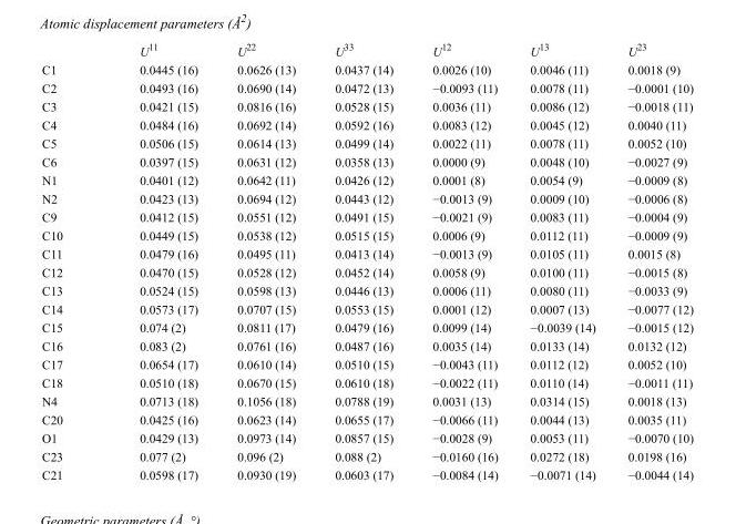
<table><thead><tr><td></td><td>U<sup>11</sup></td><td>U<sup>22</sup></td><td>U<sup>33</sup></td><td>U<sup>12</sup></td><td>U<sup>13</sup></td><td>U<sup>23</sup></td></tr></thead><tbody><tr><td>C1</td><td>0.0445 (16)</td><td>0.0626 (13)</td><td>0.0437 (14)</td><td>0.0026 (10)</td><td>0.0046 (11)</td><td>0.0018 (9)</td></tr><tr><td>C2</td><td>0.0493 (16)</td><td>0.0690 (14)</td><td>0.0472 (13)</td><td>−0.0093 (11)</td><td>0.0078 (11)</td><td>−0.0001 (10)</td></tr><tr><td>C3</td><td>0.0421 (15)</td><td>0.0816 (16)</td><td>0.0528 (15)</td><td>0.0036 (11)</td><td>0.0086 (12)</td><td>−0.0018 (11)</td></tr><tr><td>C4</td><td>0.0484 (16)</td><td>0.0692 (14)</td><td>0.0592 (16)</td><td>0.0083 (12)</td><td>0.0045 (12)</td><td>0.0040 (11)</td></tr><tr><td>C5</td><td>0.0506 (15)</td><td>0.0614 (13)</td><td>0.0499 (14)</td><td>0.0022 (11)</td><td>0.0078 (11)</td><td>0.0052 (10)</td></tr><tr><td>C6</td><td>0.0397 (15)</td><td>0.0631 (12)</td><td>0.0358 (13)</td><td>0.0000 (9)</td><td>0.0048 (10)</td><td>−0.0027 (9)</td></tr><tr><td>N1</td><td>0.0401 (12)</td><td>0.0642 (11)</td><td>0.0426 (12)</td><td>0.0001 (8)</td><td>0.0054 (9)</td><td>−0.0009 (8)</td></tr><tr><td>N2</td><td>0.0423 (13)</td><td>0.0694 (12)</td><td>0.0443 (12)</td><td>−0.0013 (9)</td><td>0.0009 (10)</td><td>−0.0006 (8)</td></tr><tr><td>C9</td><td>0.0412 (15)</td><td>0.0551 (12)</td><td>0.0491 (15)</td><td>−0.0021 (9)</td><td>0.0083 (11)</td><td>−0.0004 (9)</td></tr><tr><td>C10</td><td>0.0449 (15)</td><td>0.0538 (12)</td><td>0.0515 (15)</td><td>0.0006 (9)</td><td>0.0112 (11)</td><td>−0.0009 (9)</td></tr><tr><td>C11</td><td>0.0479 (16)</td><td>0.0495 (11)</td><td>0.0413 (14)</td><td>−0.0013 (9)</td><td>0.0105 (11)</td><td>0.0015 (8)</td></tr><tr><td>C12</td><td>0.0470 (15)</td><td>0.0528 (12)</td><td>0.0452 (14)</td><td>0.0058 (9)</td><td>0.0100 (11)</td><td>−0.0015 (8)</td></tr><tr><td>C13</td><td>0.0524 (15)</td><td>0.0598 (13)</td><td>0.0446 (13)</td><td>0.0006 (11)</td><td>0.0080 (11)</td><td>−0.0033 (9)</td></tr><tr><td>C14</td><td>0.0573 (17)</td><td>0.0707 (15)</td><td>0.0553 (15)</td><td>0.0001 (12)</td><td>0.0007 (13)</td><td>−0.0077 (12)</td></tr><tr><td>C15</td><td>0.074 (2)</td><td>0.0811 (17)</td><td>0.0479 (16)</td><td>0.0099 (14)</td><td>−0.0039 (14)</td><td>−0.0015 (12)</td></tr><tr><td>C16</td><td>0.083 (2)</td><td>0.0761 (16)</td><td>0.0487 (16)</td><td>0.0035 (14)</td><td>0.0133 (14)</td><td>0.0132 (12)</td></tr><tr><td>C17</td><td>0.0654 (17)</td><td>0.0610 (14)</td><td>0.0510 (15)</td><td>−0.0043 (11)</td><td>0.0112 (12)</td><td>0.0052 (10)</td></tr><tr><td>C18</td><td>0.0510 (18)</td><td>0.0670 (15)</td><td>0.0610 (18)</td><td>−0.0022 (11)</td><td>0.0110 (14)</td><td>−0.0011 (11)</td></tr><tr><td>N4</td><td>0.0713 (18)</td><td>0.1056 (18)</td><td>0.0788 (19)</td><td>0.0031 (13)</td><td>0.0314 (15)</td><td>0.0018 (13)</td></tr><tr><td>C20</td><td>0.0425 (16)</td><td>0.0623 (14)</td><td>0.0655 (17)</td><td>−0.0066 (11)</td><td>0.0044 (13)</td><td>0.0035 (11)</td></tr><tr><td>O1</td><td>0.0429 (13)</td><td>0.0973 (14)</td><td>0.0857 (15)</td><td>−0.0028 (9)</td><td>0.0053 (11)</td><td>−0.0070 (10)</td></tr><tr><td>C23</td><td>0.077 (2)</td><td>0.096 (2)</td><td>0.088 (2)</td><td>−0.0160 (16)</td><td>0.0272 (18)</td><td>0.0198 (16)</td></tr><tr><td>C21</td><td>0.0598 (17)</td><td>0.0930 (19)</td><td>0.0603 (17)</td><td>−0.0084 (14)</td><td>−0.0071 (14)</td><td>−0.0044 (14)</td></tr></tbody></table>